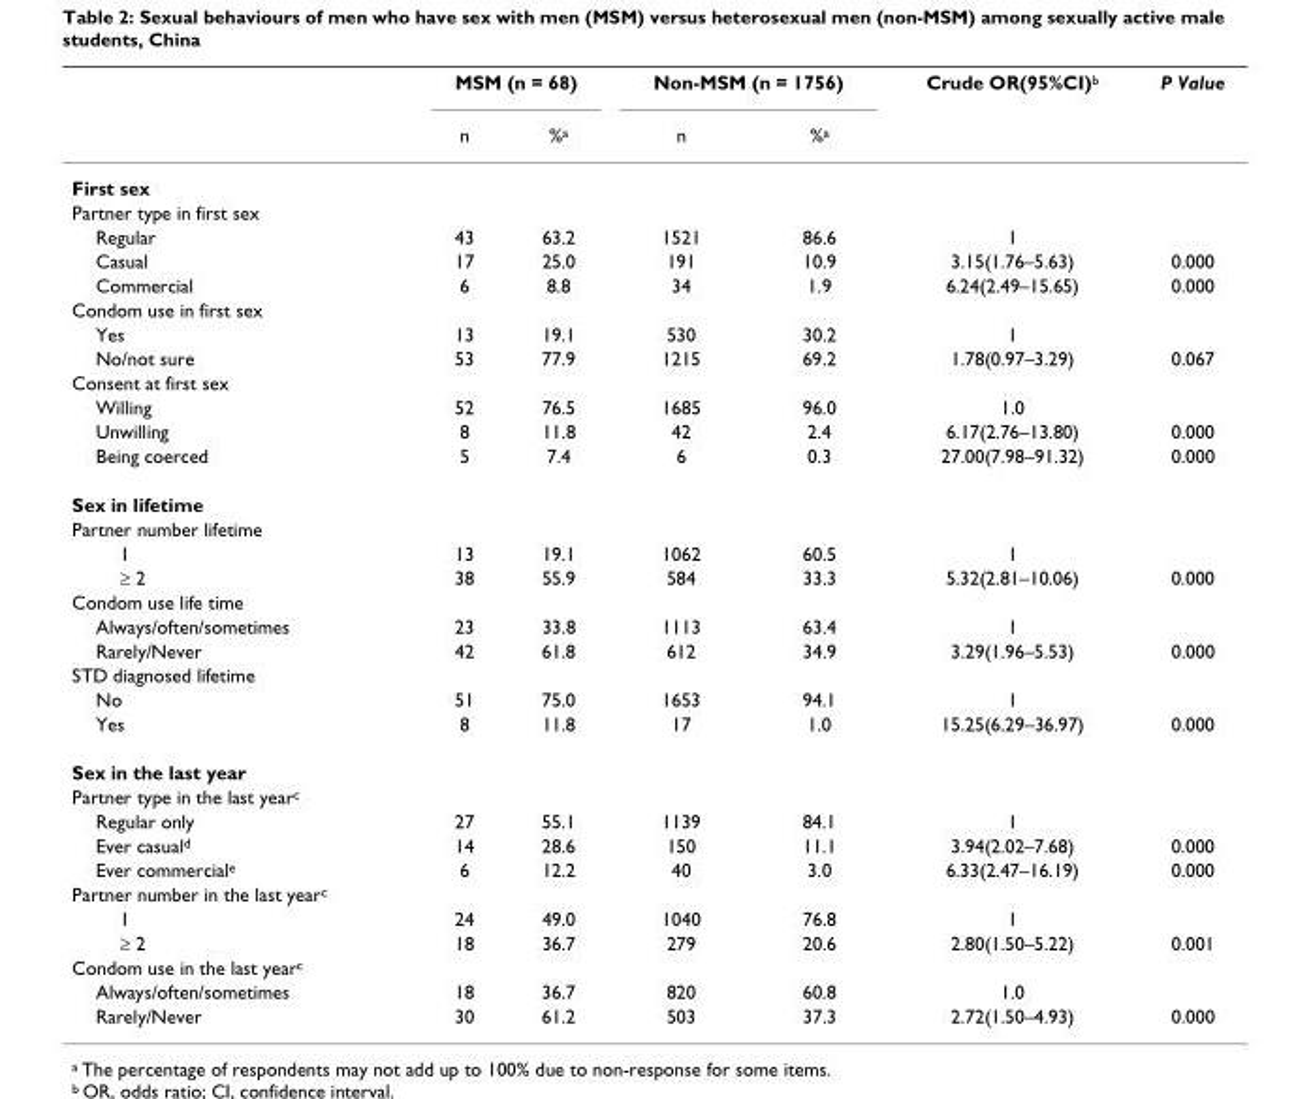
<table><thead><tr><td rowspan="2"></td><td colspan="2">MSM (n = 68)</td><td colspan="2">Non-MSM (n = 1756)</td><td rowspan="2">Crude OR(95%CI)<sup>b</sup></td><td rowspan="2">P Value</td></tr><tr><td>n</td><td>%<sup>a</sup></td><td>n</td><td>%<sup>a</sup></td></tr></thead><tbody><tr><td colspan="7">First sex</td></tr><tr><td colspan="7">Partner type in first sex</td></tr><tr><td>Regular</td><td>43</td><td>63.2</td><td>1521</td><td>86.6</td><td>1</td><td></td></tr><tr><td>Casual</td><td>17</td><td>25.0</td><td>191</td><td>10.9</td><td>3.15(1.76–5.63)</td><td>0.000</td></tr><tr><td>Commercial</td><td>6</td><td>8.8</td><td>34</td><td>1.9</td><td>6.24(2.49–15.65)</td><td>0.000</td></tr><tr><td colspan="7">Condom use in first sex</td></tr><tr><td>Yes</td><td>13</td><td>19.1</td><td>530</td><td>30.2</td><td>1</td><td></td></tr><tr><td>No/not sure</td><td>53</td><td>77.9</td><td>1215</td><td>69.2</td><td>1.78(0.97–3.29)</td><td>0.067</td></tr><tr><td colspan="7">Consent at first sex</td></tr><tr><td>Willing</td><td>52</td><td>76.5</td><td>1685</td><td>96.0</td><td>1.0</td><td></td></tr><tr><td>Unwilling</td><td>8</td><td>11.8</td><td>42</td><td>2.4</td><td>6.17(2.76–13.80)</td><td>0.000</td></tr><tr><td>Being coerced</td><td>5</td><td>7.4</td><td>6</td><td>0.3</td><td>27.00(7.98–91.32)</td><td>0.000</td></tr><tr><td colspan="7">Sex in lifetime</td></tr><tr><td colspan="7">Partner number lifetime</td></tr><tr><td>1</td><td>13</td><td>19.1</td><td>1062</td><td>60.5</td><td>1</td><td></td></tr><tr><td>≥ 2</td><td>38</td><td>55.9</td><td>584</td><td>33.3</td><td>5.32(2.81–10.06)</td><td>0.000</td></tr><tr><td colspan="7">Condom use life time</td></tr><tr><td>Always/often/sometimes</td><td>23</td><td>33.8</td><td>1113</td><td>63.4</td><td>1</td><td></td></tr><tr><td>Rarely/Never</td><td>42</td><td>61.8</td><td>612</td><td>34.9</td><td>3.29(1.96–5.53)</td><td>0.000</td></tr><tr><td colspan="7">STD diagnosed lifetime</td></tr><tr><td>No</td><td>51</td><td>75.0</td><td>1653</td><td>94.1</td><td>1</td><td></td></tr><tr><td>Yes</td><td>8</td><td>11.8</td><td>17</td><td>1.0</td><td>15.25(6.29–36.97)</td><td>0.000</td></tr><tr><td colspan="7">Sex in the last year</td></tr><tr><td colspan="7">Partner type in the last year<sup>c</sup></td></tr><tr><td>Regular only</td><td>27</td><td>55.1</td><td>1139</td><td>84.1</td><td>1</td><td></td></tr><tr><td>Ever casual<sup>d</sup></td><td>14</td><td>28.6</td><td>150</td><td>11.1</td><td>3.94(2.02–7.68)</td><td>0.000</td></tr><tr><td>Ever commercial<sup>e</sup></td><td>6</td><td>12.2</td><td>40</td><td>3.0</td><td>6.33(2.47–16.19)</td><td>0.000</td></tr><tr><td colspan="7">Partner number in the last year<sup>c</sup></td></tr><tr><td>1</td><td>24</td><td>49.0</td><td>1040</td><td>76.8</td><td>1</td><td></td></tr><tr><td>≥ 2</td><td>18</td><td>36.7</td><td>279</td><td>20.6</td><td>2.80(1.50–5.22)</td><td>0.001</td></tr><tr><td colspan="7">Condom use in the last year<sup>c</sup></td></tr><tr><td>Always/often/sometimes</td><td>18</td><td>36.7</td><td>820</td><td>60.8</td><td>1.0</td><td></td></tr><tr><td>Rarely/Never</td><td>30</td><td>61.2</td><td>503</td><td>37.3</td><td>2.72(1.50–4.93)</td><td>0.000</td></tr></tbody></table>